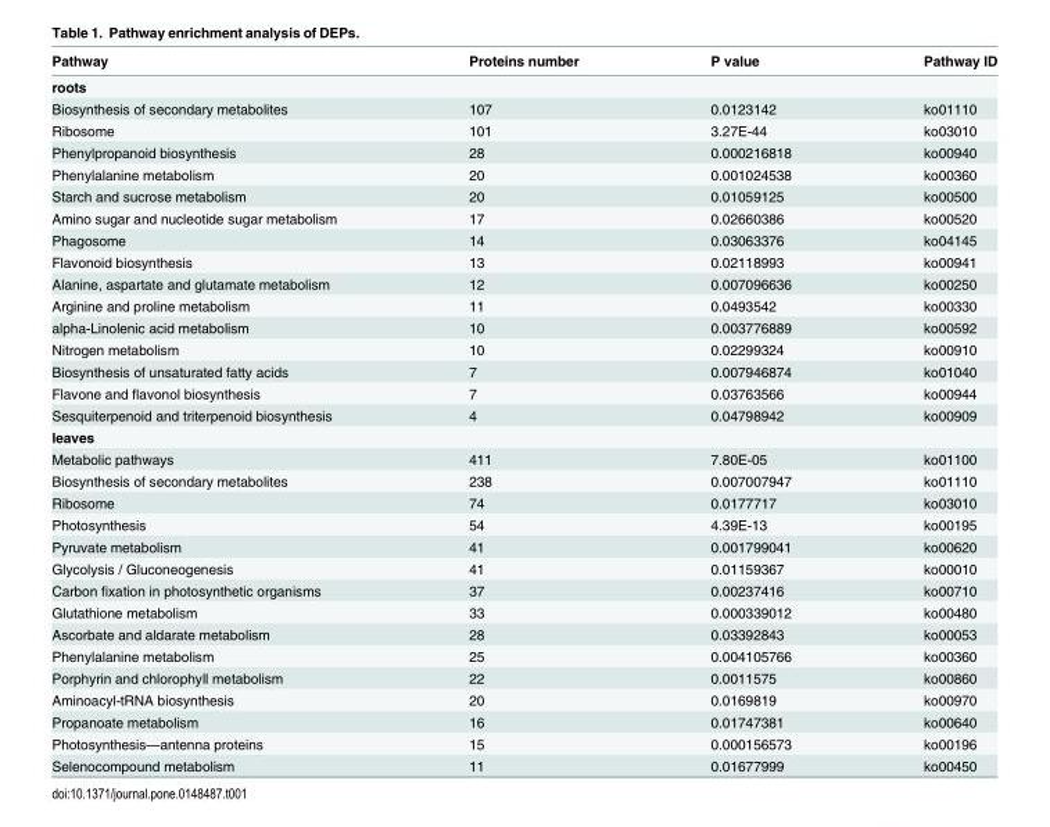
<table><thead><tr><td>Pathway</td><td>Proteins number</td><td>P value</td><td>Pathway ID</td></tr></thead><tbody><tr><td colspan="4">roots</td></tr><tr><td>Biosynthesis of secondary metabolites</td><td>107</td><td>0.0123142</td><td>ko01110</td></tr><tr><td>Ribosome</td><td>101</td><td>3.27E-44</td><td>ko03010</td></tr><tr><td>Phenylpropanoid biosynthesis</td><td>28</td><td>0.000216818</td><td>ko00940</td></tr><tr><td>Phenylalanine metabolism</td><td>20</td><td>0.001024538</td><td>ko00360</td></tr><tr><td>Starch and sucrose metabolism</td><td>20</td><td>0.01059125</td><td>ko00500</td></tr><tr><td>Amino sugar and nucleotide sugar metabolism</td><td>17</td><td>0.02660386</td><td>ko00520</td></tr><tr><td>Phagosome</td><td>14</td><td>0.03063376</td><td>ko04145</td></tr><tr><td>Flavonoid biosynthesis</td><td>13</td><td>0.02118993</td><td>ko00941</td></tr><tr><td>Alanine, aspartate and glutamate metabolism</td><td>12</td><td>0.007096636</td><td>ko00250</td></tr><tr><td>Arginine and proline metabolism</td><td>11</td><td>0.0493542</td><td>ko00330</td></tr><tr><td>alpha-Linolenic acid metabolism</td><td>10</td><td>0.003776889</td><td>ko00592</td></tr><tr><td>Nitrogen metabolism</td><td>10</td><td>0.02299324</td><td>ko00910</td></tr><tr><td>Biosynthesis of unsaturated fatty acids</td><td>7</td><td>0.007946874</td><td>ko01040</td></tr><tr><td>Flavone and flavonol biosynthesis</td><td>7</td><td>0.03763566</td><td>ko00944</td></tr><tr><td>Sesquiterpenoid and triterpenoid biosynthesis</td><td>4</td><td>0.04798942</td><td>ko00909</td></tr><tr><td colspan="4">leaves</td></tr><tr><td>Metabolic pathways</td><td>411</td><td>7.80E-05</td><td>ko01100</td></tr><tr><td>Biosynthesis of secondary metabolites</td><td>238</td><td>0.007007947</td><td>ko01110</td></tr><tr><td>Ribosome</td><td>74</td><td>0.0177717</td><td>ko03010</td></tr><tr><td>Photosynthesis</td><td>54</td><td>4.39E-13</td><td>ko00195</td></tr><tr><td>Pyruvate metabolism</td><td>41</td><td>0.001799041</td><td>ko00620</td></tr><tr><td>Glycolysis / Gluconeogenesis</td><td>41</td><td>0.01159367</td><td>ko00010</td></tr><tr><td>Carbon fixation in photosynthetic organisms</td><td>37</td><td>0.00237416</td><td>ko00710</td></tr><tr><td>Glutathione metabolism</td><td>33</td><td>0.000339012</td><td>ko00480</td></tr><tr><td>Ascorbate and aldarate metabolism</td><td>28</td><td>0.03392843</td><td>ko00053</td></tr><tr><td>Phenylalanine metabolism</td><td>25</td><td>0.004105766</td><td>ko00360</td></tr><tr><td>Porphyrin and chlorophyll metabolism</td><td>22</td><td>0.0011575</td><td>ko00860</td></tr><tr><td>Aminoacyl-tRNA biosynthesis</td><td>20</td><td>0.0169819</td><td>ko00970</td></tr><tr><td>Propanoate metabolism</td><td>16</td><td>0.01747381</td><td>ko00640</td></tr><tr><td>Photosynthesis—antenna proteins</td><td>15</td><td>0.000156573</td><td>ko00196</td></tr><tr><td>Selenocompound metabolism</td><td>11</td><td>0.01677999</td><td>ko00450</td></tr></tbody></table>